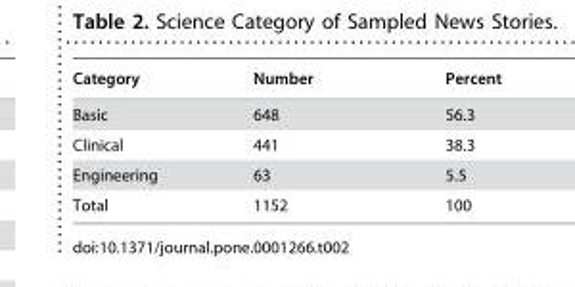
<table><thead><tr><td>Category</td><td>Number</td><td>Percent</td></tr></thead><tbody><tr><td>Basic</td><td>648</td><td>56.3</td></tr><tr><td>Clinical</td><td>441</td><td>38.3</td></tr><tr><td>Engineering</td><td>63</td><td>5.5</td></tr><tr><td>Total</td><td>1152</td><td>100</td></tr></tbody></table>